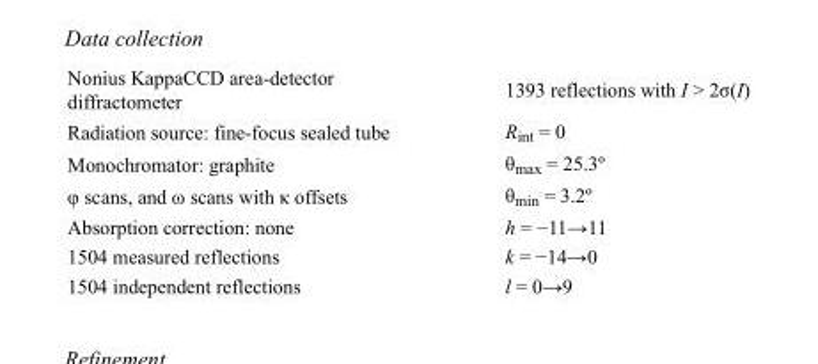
<table><tbody><tr><td>Nonius KappaCCD area-detector diffractometer</td><td>1393 reflections with I &gt; 2σ(I)</td></tr><tr><td>Radiation source: fine-focus sealed tube</td><td>R<sub>int</sub> = 0</td></tr><tr><td>Monochromator: graphite</td><td>θ<sub>max</sub> = 25.3º</td></tr><tr><td>φ scans, and ω scans with κ offsets</td><td>θ<sub>min</sub> = 3.2º</td></tr><tr><td>Absorption correction: none</td><td>h = −11→11</td></tr><tr><td>1504 measured reflections</td><td>k = −14→0</td></tr><tr><td>1504 independent reflections</td><td>l = 0→9</td></tr></tbody></table>